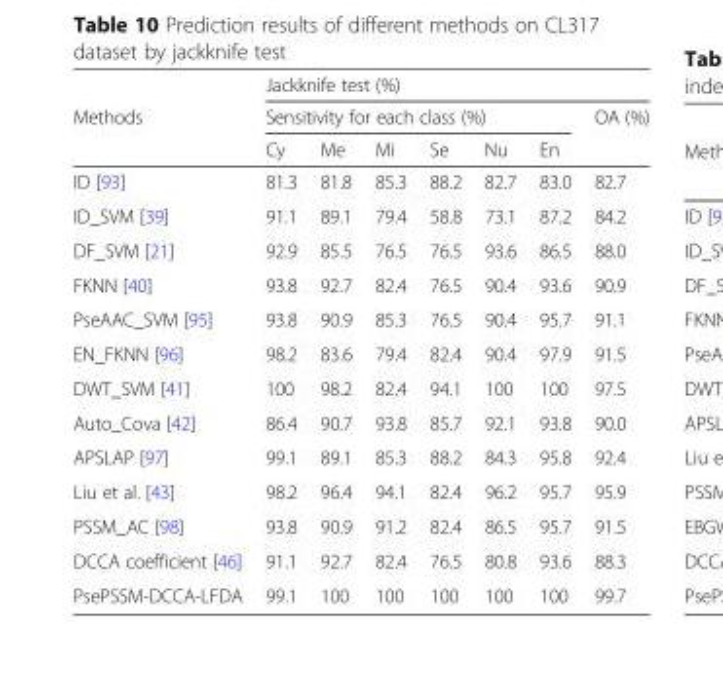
<table><thead><tr><td rowspan="3">Methods</td><td colspan="7">Jackknife test (%)</td></tr><tr><td colspan="6">Sensitivity for each class (%)</td><td rowspan="2">OA (%)</td></tr><tr><td>Cy</td><td>Me</td><td>Mi</td><td>Se</td><td>Nu</td><td>En</td></tr></thead><tbody><tr><td>ID [93]</td><td>81.3</td><td>81.8</td><td>85.3</td><td>88.2</td><td>82.7</td><td>83.0</td><td>82.7</td></tr><tr><td>ID_SVM [39]</td><td>91.1</td><td>89.1</td><td>79.4</td><td>58.8</td><td>73.1</td><td>87.2</td><td>84.2</td></tr><tr><td>DF_SVM [21]</td><td>92.9</td><td>85.5</td><td>76.5</td><td>76.5</td><td>93.6</td><td>86.5</td><td>88.0</td></tr><tr><td>FKNN [40]</td><td>93.8</td><td>92.7</td><td>82.4</td><td>76.5</td><td>90.4</td><td>93.6</td><td>90.9</td></tr><tr><td>PseAAC_SVM [95]</td><td>93.8</td><td>90.9</td><td>85.3</td><td>76.5</td><td>90.4</td><td>95.7</td><td>91.1</td></tr><tr><td>EN_FKNN [96]</td><td>98.2</td><td>83.6</td><td>79.4</td><td>82.4</td><td>90.4</td><td>97.9</td><td>91.5</td></tr><tr><td>DWT_SVM [41]</td><td>100</td><td>98.2</td><td>82.4</td><td>94.1</td><td>100</td><td>100</td><td>97.5</td></tr><tr><td>Auto_Cova [42]</td><td>86.4</td><td>90.7</td><td>93.8</td><td>85.7</td><td>92.1</td><td>93.8</td><td>90.0</td></tr><tr><td>APSLAP [97]</td><td>99.1</td><td>89.1</td><td>85.3</td><td>88.2</td><td>84.3</td><td>95.8</td><td>92.4</td></tr><tr><td>Liu et al. [43]</td><td>98.2</td><td>96.4</td><td>94.1</td><td>82.4</td><td>96.2</td><td>95.7</td><td>95.9</td></tr><tr><td>PSSM_AC [98]</td><td>93.8</td><td>90.9</td><td>91.2</td><td>82.4</td><td>86.5</td><td>95.7</td><td>91.5</td></tr><tr><td>DCCA coefficient [46]</td><td>91.1</td><td>92.7</td><td>82.4</td><td>76.5</td><td>80.8</td><td>93.6</td><td>88.3</td></tr><tr><td>PsePSSM-DCCA-LFDA</td><td>99.1</td><td>100</td><td>100</td><td>100</td><td>100</td><td>100</td><td>99.7</td></tr></tbody></table>